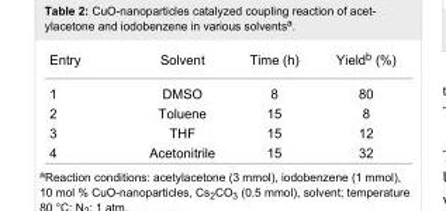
<table><tbody><tr><td>Entry</td><td>Solvent</td><td>Time (h)</td><td>Yield<sup>b</sup> (%)</td></tr><tr><td>1</td><td>DMSO</td><td>8</td><td>80</td></tr><tr><td>2</td><td>Toluene</td><td>15</td><td>8</td></tr><tr><td>3</td><td>THF</td><td>15</td><td>12</td></tr><tr><td>4</td><td>Acetonitrile</td><td>15</td><td>32</td></tr></tbody></table>